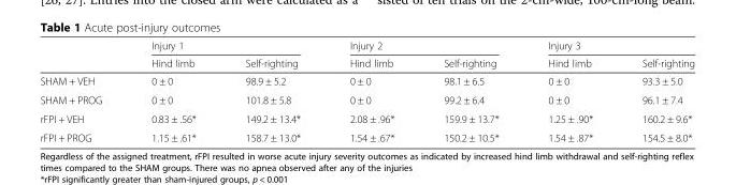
<table><thead><tr><td rowspan="2"></td><td colspan="2">Injury 1</td><td colspan="2">Injury 2</td><td colspan="2">Injury 3</td></tr><tr><td>Hind limb</td><td>Self-righting</td><td>Hind limb</td><td>Self-righting</td><td>Hind limb</td><td>Self-righting</td></tr></thead><tbody><tr><td>SHAM + VEH</td><td>0 ± 0</td><td>98.9 ± 5.2</td><td>0 ± 0</td><td>98.1 ± 6.5</td><td>0 ± 0</td><td>93.3 ± 5.0</td></tr><tr><td>SHAM + PROG</td><td>0 ± 0</td><td>101.8 ± 5.8</td><td>0 ± 0</td><td>99.2 ± 6.4</td><td>0 ± 0</td><td>96.1 ± 7.4</td></tr><tr><td>rFPI + VEH</td><td>0.83 ± .56*</td><td>149.2 ± 13.4*</td><td>2.08 ± .96*</td><td>159.9 ± 13.7*</td><td>1.25 ± .90*</td><td>160.2 ± 9.6*</td></tr><tr><td>rFPI + PROG</td><td>1.15 ± .61*</td><td>158.7 ± 13.0*</td><td>1.54 ± .67*</td><td>150.2 ± 10.5*</td><td>1.54 ± .87*</td><td>154.5 ± 8.0*</td></tr></tbody></table>